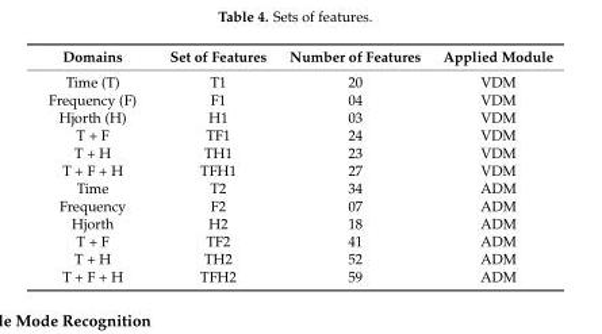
<table><thead><tr><td>Domains</td><td>Set of Features</td><td>Number of Features</td><td>Applied Module</td></tr></thead><tbody><tr><td>Time (T)</td><td>T1</td><td>20</td><td>VDM</td></tr><tr><td>Frequency (F)</td><td>F1</td><td>04</td><td>VDM</td></tr><tr><td>Hjorth (H)</td><td>H1</td><td>03</td><td>VDM</td></tr><tr><td>T + F</td><td>TF1</td><td>24</td><td>VDM</td></tr><tr><td>T + H</td><td>TH1</td><td>23</td><td>VDM</td></tr><tr><td>T + F + H</td><td>TFH1</td><td>27</td><td>VDM</td></tr><tr><td>Time</td><td>T2</td><td>34</td><td>ADM</td></tr><tr><td>Frequency</td><td>F2</td><td>07</td><td>ADM</td></tr><tr><td>Hjorth</td><td>H2</td><td>18</td><td>ADM</td></tr><tr><td>T + F</td><td>TF2</td><td>41</td><td>ADM</td></tr><tr><td>T + H</td><td>TH2</td><td>52</td><td>ADM</td></tr><tr><td>T + F + H</td><td>TFH2</td><td>59</td><td>ADM</td></tr></tbody></table>